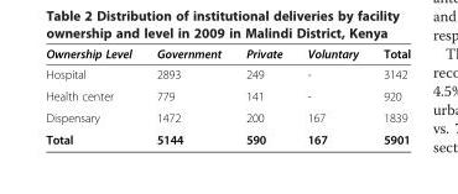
<table><thead><tr><td>Ownership Level</td><td>Government</td><td>Private</td><td>Voluntary</td><td>Total</td></tr></thead><tbody><tr><td>Hospital</td><td>2893</td><td>249</td><td>-</td><td>3142</td></tr><tr><td>Health center</td><td>779</td><td>141</td><td>-</td><td>920</td></tr><tr><td>Dispensary</td><td>1472</td><td>200</td><td>167</td><td>1839</td></tr><tr><td>Total</td><td>5144</td><td>590</td><td>167</td><td>5901</td></tr></tbody></table>